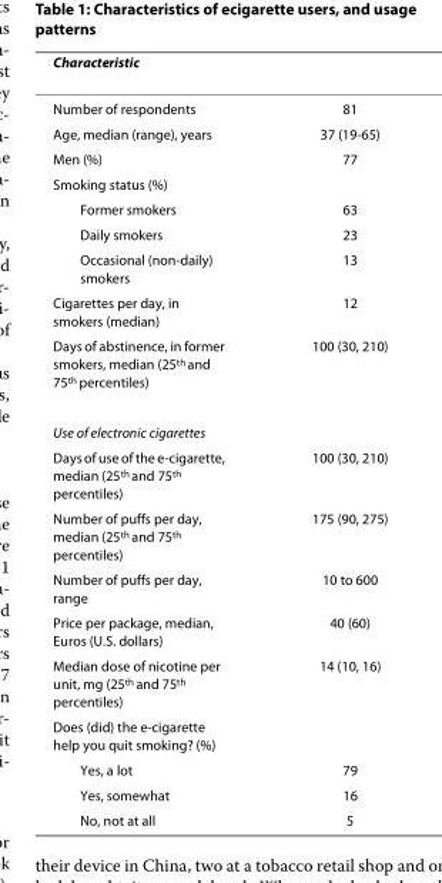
<table><thead><tr><td>Characteristic</td><td></td></tr></thead><tbody><tr><td>Number of respondents</td><td>81</td></tr><tr><td>Age, median (range), years</td><td>37 (19-65)</td></tr><tr><td>Men (%)</td><td>77</td></tr><tr><td colspan="2">Smoking status (%)</td></tr><tr><td>Former smokers</td><td>63</td></tr><tr><td>Daily smokers</td><td>23</td></tr><tr><td>Occasional (non-daily) smokers</td><td>13</td></tr><tr><td>Cigarettes per day, in smokers (median)</td><td>12</td></tr><tr><td>Days of abstinence, in former smokers, median (25<sup>th</sup> and 75<sup>th</sup> percentiles)</td><td>100 (30, 210)</td></tr><tr><td colspan="2">Use of electronic cigarettes</td></tr><tr><td>Days of use of the e-cigarette, median (25<sup>th</sup> and 75<sup>th</sup> percentiles)</td><td>100 (30, 210)</td></tr><tr><td>Number of puffs per day, median (25<sup>th</sup> and 75<sup>th</sup> percentiles)</td><td>175 (90, 275)</td></tr><tr><td>Number of puffs per day, range</td><td>10 to 600</td></tr><tr><td>Price per package, median, Euros (U.S. dollars)</td><td>40 (60)</td></tr><tr><td>Median dose of nicotine per unit, mg (25<sup>th</sup> and 75<sup>th</sup> percentiles)</td><td>14 (10, 16)</td></tr><tr><td colspan="2">Does (did) the e-cigarette help you quit smoking? (%)</td></tr><tr><td>Yes, a lot</td><td>79</td></tr><tr><td>Yes, somewhat</td><td>16</td></tr><tr><td>No, not at all</td><td>5</td></tr></tbody></table>